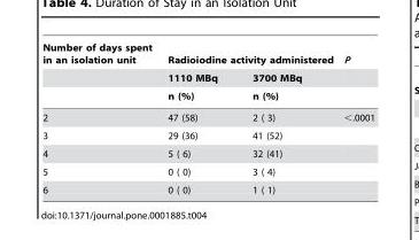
<table><thead><tr><td rowspan="3">Number of days spent in an isolation unit</td><td colspan="2">Radioiodine activity administered</td><td rowspan="3">P</td></tr><tr><td rowspan="2">1110 MBq n (%)</td><td rowspan="2">3700 MBq n (%)</td></tr><tr></tr></thead><tbody><tr><td>2</td><td>47 (58)</td><td>2 ( 3)</td><td>&lt;.0001</td></tr><tr><td>3</td><td>29 (36)</td><td>41 (52)</td><td></td></tr><tr><td>4</td><td>5 ( 6)</td><td>32 (41)</td><td></td></tr><tr><td>5</td><td>0 ( 0)</td><td>3 ( 4)</td><td></td></tr><tr><td>6</td><td>0 ( 0)</td><td>1 ( 1)</td><td></td></tr></tbody></table>